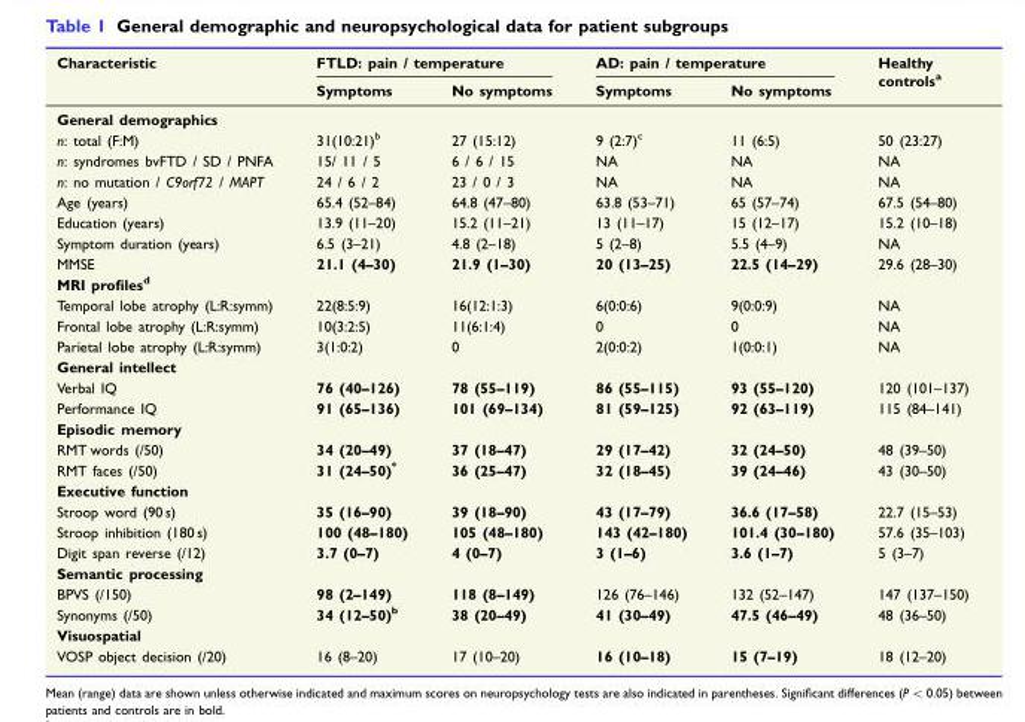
<table><thead><tr><td rowspan="2">Characteristic</td><td colspan="2">FTLD: pain / temperature</td><td colspan="2">AD: pain / temperature</td><td rowspan="2">Healthy controls<sup>a</sup></td></tr><tr><td>Symptoms</td><td>No symptoms</td><td>Symptoms</td><td>No symptoms</td></tr></thead><tbody><tr><td colspan="6">General demographics</td></tr><tr><td>n: total (F:M)</td><td>31(10:21)<sup>b</sup></td><td>27 (15:12)</td><td>9 (2:7)<sup>c</sup></td><td>11 (6:5)</td><td>50 (23:27)</td></tr><tr><td>n: syndromes bvFTD / SD / PNFA</td><td>15/ 11 / 5</td><td>6 / 6 / 15</td><td>NA</td><td>NA</td><td>NA</td></tr><tr><td>n: no mutation / C9orf72 / MAPT</td><td>24 / 6 / 2</td><td>23 / 0 / 3</td><td>NA</td><td>NA</td><td>NA</td></tr><tr><td>Age (years)</td><td>65.4 (52–84)</td><td>64.8 (47–80)</td><td>63.8 (53–71)</td><td>65 (57–74)</td><td>67.5 (54–80)</td></tr><tr><td>Education (years)</td><td>13.9 (11–20)</td><td>15.2 (11–21)</td><td>13 (11–17)</td><td>15 (12–17)</td><td>15.2 (10–18)</td></tr><tr><td>Symptom duration (years)</td><td>6.5 (3–21)</td><td>4.8 (2–18)</td><td>5 (2–8)</td><td>5.5 (4–9)</td><td>NA</td></tr><tr><td>MMSE</td><td>21.1 (4–30)</td><td>21.9 (1–30)</td><td>20 (13–25)</td><td>22.5 (14–29)</td><td>29.6 (28–30)</td></tr><tr><td colspan="6">MRI profiles<sup>d</sup></td></tr><tr><td>Temporal lobe atrophy (L:R:symm)</td><td>22(8:5:9)</td><td>16(12:1:3)</td><td>6(0:0:6)</td><td>9(0:0:9)</td><td>NA</td></tr><tr><td>Frontal lobe atrophy (L:R:symm)</td><td>10(3:2:5)</td><td>11(6:1:4)</td><td>0</td><td>0</td><td>NA</td></tr><tr><td>Parietal lobe atrophy (L:R:symm)</td><td>3(1:0:2)</td><td>0</td><td>2(0:0:2)</td><td>1(0:0:1)</td><td>NA</td></tr><tr><td colspan="6">General intellect</td></tr><tr><td>Verbal IQ</td><td>76 (40–126)</td><td>78 (55–119)</td><td>86 (55–115)</td><td>93 (55–120)</td><td>120 (101–137)</td></tr><tr><td>Performance IQ</td><td>91 (65–136)</td><td>101 (69–134)</td><td>81 (59–125)</td><td>92 (63–119)</td><td>115 (84–141)</td></tr><tr><td colspan="6">Episodic memory</td></tr><tr><td>RMT words (/50)</td><td>34 (20–49)</td><td>37 (18–47)</td><td>29 (17–42)</td><td>32 (24–50)</td><td>48 (39–50)</td></tr><tr><td>RMT faces (/50)</td><td>31 (24–50)*</td><td>36 (25–47)</td><td>32 (18–45)</td><td>39 (24–46)</td><td>43 (30–50)</td></tr><tr><td colspan="6">Executive function</td></tr><tr><td>Stroop word (90 s)</td><td>35 (16–90)</td><td>39 (18–90)</td><td>43 (17–79)</td><td>36.6 (17–58)</td><td>22.7 (15–53)</td></tr><tr><td>Stroop inhibition (180 s)</td><td>100 (48–180)</td><td>105 (48–180)</td><td>143 (42–180)</td><td>101.4 (30–180)</td><td>57.6 (35–103)</td></tr><tr><td>Digit span reverse (/12)</td><td>3.7 (0–7)</td><td>4 (0–7)</td><td>3 (1–6)</td><td>3.6 (1–7)</td><td>5 (3–7)</td></tr><tr><td colspan="6">Semantic processing</td></tr><tr><td>BPVS (/150)</td><td>98 (2–149)</td><td>118 (8–149)</td><td>126 (76–146)</td><td>132 (52–147)</td><td>147 (137–150)</td></tr><tr><td>Synonyms (/50)</td><td>34 (12–50)<sup>b</sup></td><td>38 (20–49)</td><td>41 (30–49)</td><td>47.5 (46–49)</td><td>48 (36–50)</td></tr><tr><td colspan="6">Visuospatial</td></tr><tr><td>VOSP object decision (/20)</td><td>16 (8–20)</td><td>17 (10–20)</td><td>16 (10–18)</td><td>15 (7–19)</td><td>18 (12–20)</td></tr></tbody></table>